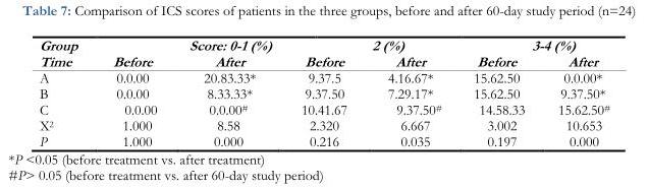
<table><thead><tr><td rowspan="2">Group Time</td><td colspan="2">Score: 0-1 (%)</td><td colspan="2">2 (%)</td><td colspan="2">3-4 (%)</td></tr><tr><td>Before</td><td>After</td><td>Before</td><td>After</td><td>Before</td><td>After</td></tr></thead><tbody><tr><td>A</td><td>0.0.00</td><td>20.83.33*</td><td>9.37.5</td><td>4.16.67*</td><td>15.62.50</td><td>0.0.00*</td></tr><tr><td>B</td><td>0.0.00</td><td>8.33.33*</td><td>9.37.50</td><td>7.29.17*</td><td>15.62.50</td><td>9.37.50*</td></tr><tr><td>C</td><td>0.0.00</td><td>0.0.00<sup>#</sup></td><td>10.41.67</td><td>9.37.50<sup>#</sup></td><td>14.58.33</td><td>15.62.50<sup>#</sup></td></tr><tr><td>X<sup>2</sup></td><td>1.000</td><td>8.58</td><td>2.320</td><td>6.667</td><td>3.002</td><td>10.653</td></tr><tr><td>P</td><td>1.000</td><td>0.000</td><td>0.216</td><td>0.035</td><td>0.197</td><td>0.000</td></tr></tbody></table>